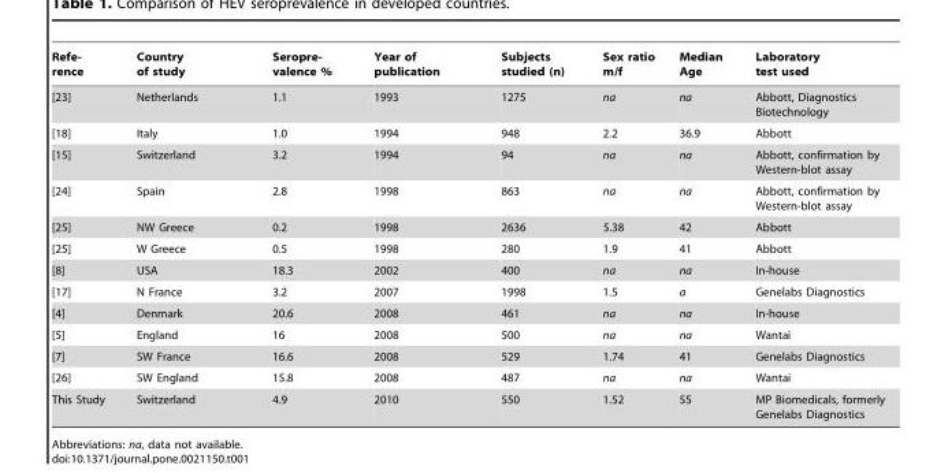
<table><thead><tr><td>Refe- rence</td><td>Country of study</td><td>Seropre- valence %</td><td>Year of publication</td><td>Subjects studied (n)</td><td>Sex ratio m/f</td><td>Median Age</td><td>Laboratory test used</td></tr></thead><tbody><tr><td>[23]</td><td>Netherlands</td><td>1.1</td><td>1993</td><td>1275</td><td>na</td><td>na</td><td>Abbott, Diagnostics Biotechnology</td></tr><tr><td>[18]</td><td>Italy</td><td>1.0</td><td>1994</td><td>948</td><td>2.2</td><td>36.9</td><td>Abbott</td></tr><tr><td>[15]</td><td>Switzerland</td><td>3.2</td><td>1994</td><td>94</td><td>na</td><td>na</td><td>Abbott, confirmation by Western-blot assay</td></tr><tr><td>[24]</td><td>Spain</td><td>2.8</td><td>1998</td><td>863</td><td>na</td><td>na</td><td>Abbott, confirmation by Western-blot assay</td></tr><tr><td>[25]</td><td>NW Greece</td><td>0.2</td><td>1998</td><td>2636</td><td>5.38</td><td>42</td><td>Abbott</td></tr><tr><td>[25]</td><td>W Greece</td><td>0.5</td><td>1998</td><td>280</td><td>1.9</td><td>41</td><td>Abbott</td></tr><tr><td>[8]</td><td>USA</td><td>18.3</td><td>2002</td><td>400</td><td>na</td><td>na</td><td>In-house</td></tr><tr><td>[17]</td><td>N France</td><td>3.2</td><td>2007</td><td>1998</td><td>1.5</td><td>a</td><td>Genelabs Diagnostics</td></tr><tr><td>[4]</td><td>Denmark</td><td>20.6</td><td>2008</td><td>461</td><td>na</td><td>na</td><td>In-house</td></tr><tr><td>[5]</td><td>England</td><td>16</td><td>2008</td><td>500</td><td>na</td><td>na</td><td>Wantai</td></tr><tr><td>[7]</td><td>SW France</td><td>16.6</td><td>2008</td><td>529</td><td>1.74</td><td>41</td><td>Genelabs Diagnostics</td></tr><tr><td>[26]</td><td>SW England</td><td>15.8</td><td>2008</td><td>487</td><td>na</td><td>na</td><td>Wantai</td></tr><tr><td>This Study</td><td>Switzerland</td><td>4.9</td><td>2010</td><td>550</td><td>1.52</td><td>55</td><td>MP Biomedicals, formerly Genelabs Diagnostics</td></tr></tbody></table>